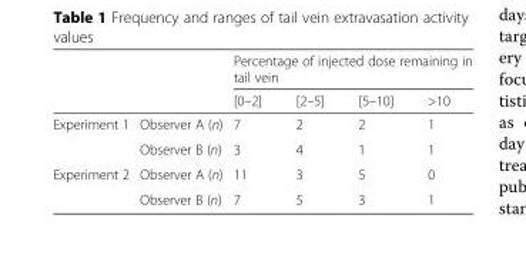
<table><thead><tr><td rowspan="2"></td><td rowspan="2"></td><td colspan="4">Percentage of injected dose remaining in tail vein</td></tr><tr><td>[0–2]</td><td>[2–5]</td><td>[5–10]</td><td>&gt;10</td></tr></thead><tbody><tr><td rowspan="2">Experiment 1</td><td>Observer A (n)</td><td>7</td><td>2</td><td>2</td><td>1</td></tr><tr><td>Observer B (n)</td><td>3</td><td>4</td><td>1</td><td>1</td></tr><tr><td rowspan="2">Experiment 2</td><td>Observer A (n)</td><td>11</td><td>3</td><td>5</td><td>0</td></tr><tr><td>Observer B (n)</td><td>7</td><td>5</td><td>3</td><td>1</td></tr></tbody></table>